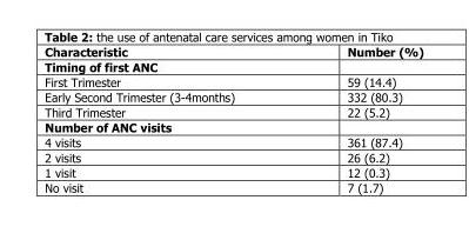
<table><thead><tr><td>Characteristic</td><td>Number (%)</td></tr></thead><tbody><tr><td colspan="2">Timing of first ANC</td></tr><tr><td>First Trimester</td><td>59 (14.4)</td></tr><tr><td>Early Second Trimester (3-4months)</td><td>332 (80.3)</td></tr><tr><td>Third Trimester</td><td>22 (5.2)</td></tr><tr><td colspan="2">Number of ANC visits</td></tr><tr><td>4 visits</td><td>361 (87.4)</td></tr><tr><td>2 visits</td><td>26 (6.2)</td></tr><tr><td>1 visit</td><td>12 (0.3)</td></tr><tr><td>No visit</td><td>7 (1.7)</td></tr></tbody></table>